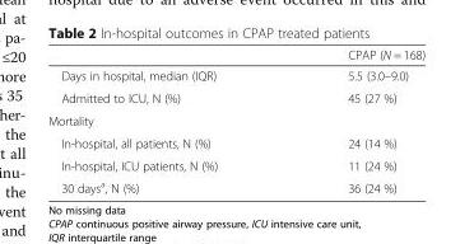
<table><thead><tr><td></td><td>CPAP (N = 168)</td></tr></thead><tbody><tr><td>Days in hospital, median (IQR)</td><td>5.5 (3.0–9.0)</td></tr><tr><td>Admitted to ICU, N (%)</td><td>45 (27 %)</td></tr><tr><td colspan="2">Mortality</td></tr><tr><td>In-hospital, all patients, N (%)</td><td>24 (14 %)</td></tr><tr><td>In-hospital, ICU patients, N (%)</td><td>11 (24 %)</td></tr><tr><td>30 days<sup>a</sup>, N (%)</td><td>36 (24 %)</td></tr></tbody></table>